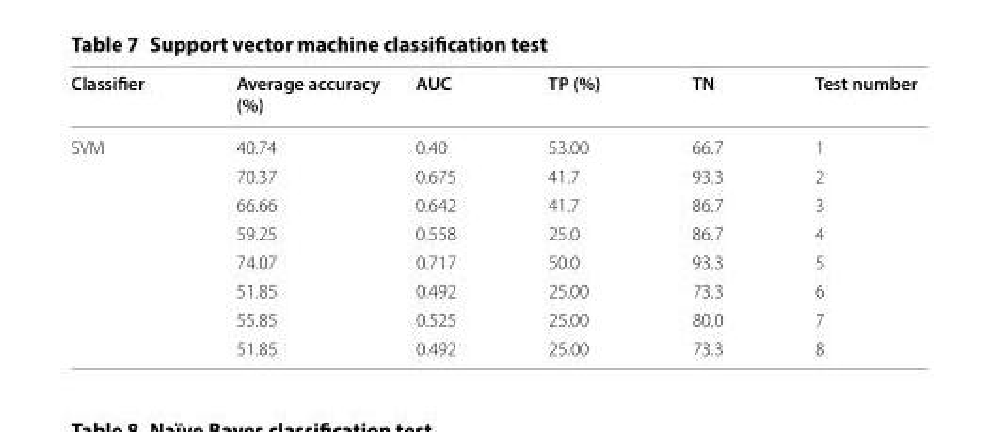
<table><thead><tr><td>Classifier</td><td>Average accuracy (%)</td><td>AUC</td><td>TP (%)</td><td>TN</td><td>Test number</td></tr></thead><tbody><tr><td rowspan="8">SVM</td><td>40.74</td><td>0.40</td><td>53.00</td><td>66.7</td><td>1</td></tr><tr><td>70.37</td><td>0.675</td><td>41.7</td><td>93.3</td><td>2</td></tr><tr><td>66.66</td><td>0.642</td><td>41.7</td><td>86.7</td><td>3</td></tr><tr><td>59.25</td><td>0.558</td><td>25.0</td><td>86.7</td><td>4</td></tr><tr><td>74.07</td><td>0.717</td><td>50.0</td><td>93.3</td><td>5</td></tr><tr><td>51.85</td><td>0.492</td><td>25.00</td><td>73.3</td><td>6</td></tr><tr><td>55.85</td><td>0.525</td><td>25.00</td><td>80.0</td><td>7</td></tr><tr><td>51.85</td><td>0.492</td><td>25.00</td><td>73.3</td><td>8</td></tr></tbody></table>